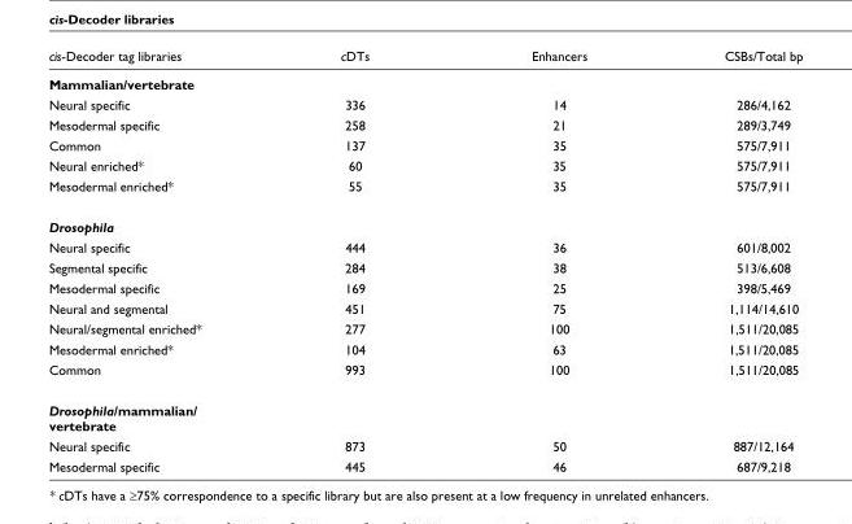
<table><thead><tr><td>cis-Decoder tag libraries</td><td>cDTs</td><td>Enhancers</td><td>CSBs/Total bp</td></tr></thead><tbody><tr><td colspan="4">Mammalian/vertebrate</td></tr><tr><td>Neural specific</td><td>336</td><td>14</td><td>286/4,162</td></tr><tr><td>Mesodermal specific</td><td>258</td><td>21</td><td>289/3,749</td></tr><tr><td>Common</td><td>137</td><td>35</td><td>575/7,911</td></tr><tr><td>Neural enriched*</td><td>60</td><td>35</td><td>575/7,911</td></tr><tr><td>Mesodermal enriched*</td><td>55</td><td>35</td><td>575/7,911</td></tr><tr><td colspan="4">Drosophila</td></tr><tr><td>Neural specific</td><td>444</td><td>36</td><td>601/8,002</td></tr><tr><td>Segmental specific</td><td>284</td><td>38</td><td>513/6,608</td></tr><tr><td>Mesodermal specific</td><td>169</td><td>25</td><td>398/5,469</td></tr><tr><td>Neural and segmental</td><td>451</td><td>75</td><td>1,114/14,610</td></tr><tr><td>Neural/segmental enriched*</td><td>277</td><td>100</td><td>1,511/20,085</td></tr><tr><td>Mesodermal enriched*</td><td>104</td><td>63</td><td>1,511/20,085</td></tr><tr><td>Common</td><td>993</td><td>100</td><td>1,511/20,085</td></tr><tr><td colspan="4">Drosophila/mammalian/ vertebrate</td></tr><tr><td>Neural specific</td><td>873</td><td>50</td><td>887/12,164</td></tr><tr><td>Mesodermal specific</td><td>445</td><td>46</td><td>687/9,218</td></tr></tbody></table>